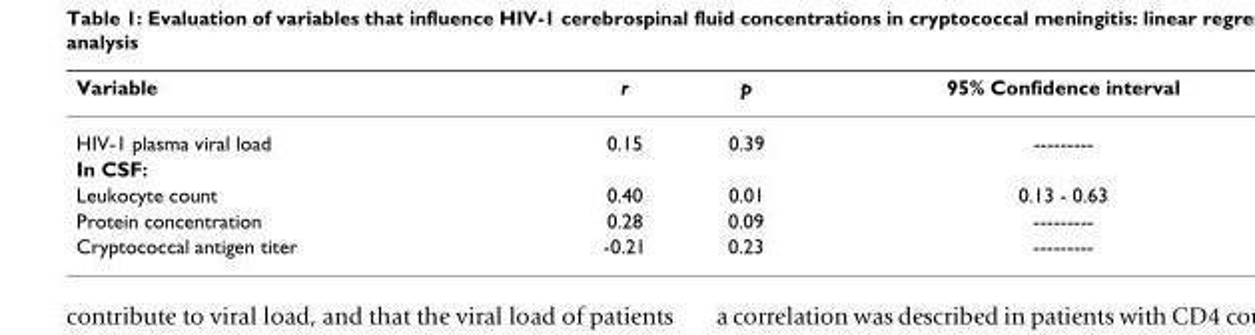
<table><thead><tr><td>Variable</td><td>r</td><td>p</td><td>95% Confidence interval</td></tr></thead><tbody><tr><td>HIV-1 plasma viral load</td><td>0.15</td><td>0.39</td><td>---------</td></tr><tr><td colspan="4">In CSF:</td></tr><tr><td>Leukocyte count</td><td>0.40</td><td>0.01</td><td>0.13 - 0.63</td></tr><tr><td>Protein concentration</td><td>0.28</td><td>0.09</td><td>---------</td></tr><tr><td>Cryptococcal antigen titer</td><td>-0.21</td><td>0.23</td><td>---------</td></tr></tbody></table>